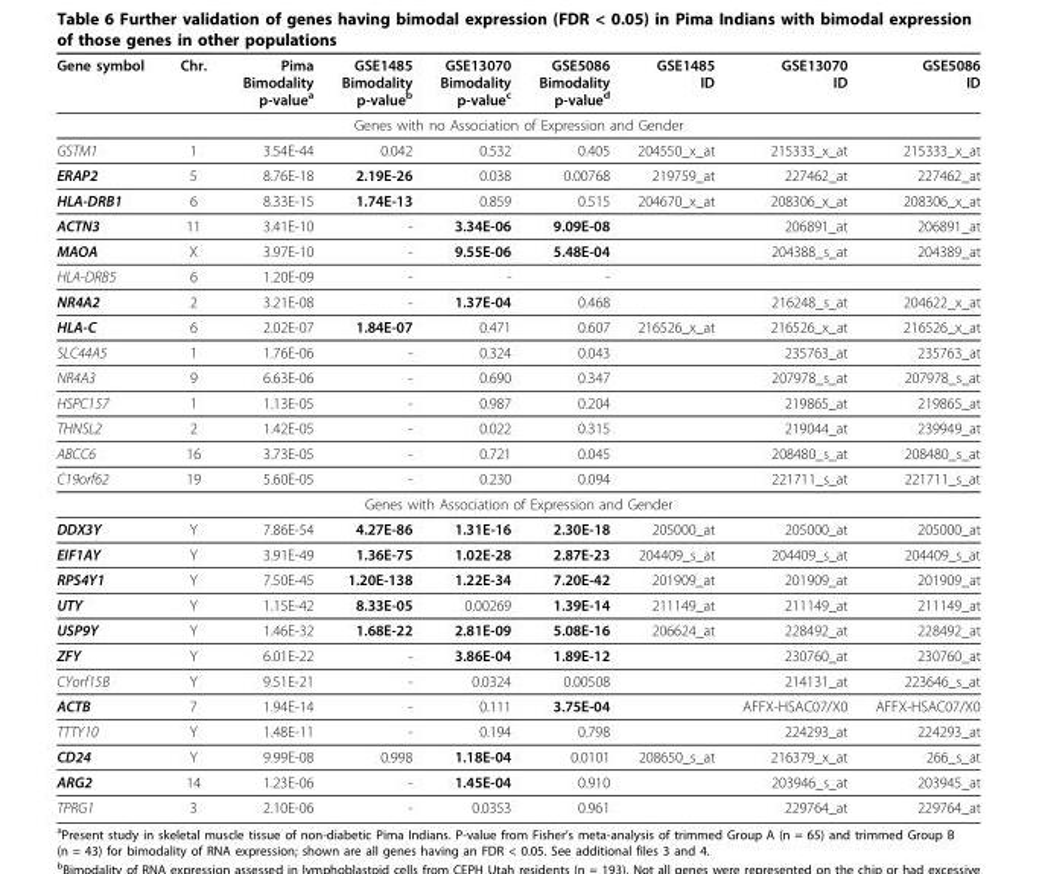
<table><thead><tr><td>Gene symbol</td><td>Chr.</td><td>Pima Bimodality p-value<sup>a</sup></td><td>GSE1485 Bimodality p-value<sup>b</sup></td><td>GSE13070 Bimodality p-value<sup>c</sup></td><td>GSE5086 Bimodality p-value<sup>d</sup></td><td>GSE1485 ID</td><td>GSE13070 ID</td><td>GSE5086 ID</td></tr></thead><tbody><tr><td colspan="9">Genes with no Association of Expression and Gender</td></tr><tr><td>GSTM1</td><td>1</td><td>3.54E-44</td><td>0.042</td><td>0.532</td><td>0.405</td><td>204550_x_at</td><td>215333_x_at</td><td>215333_x_at</td></tr><tr><td>ERAP2</td><td>5</td><td>8.76E-18</td><td>2.19E-26</td><td>0.038</td><td>0.00768</td><td>219759_at</td><td>227462_at</td><td>227462_at</td></tr><tr><td>HLA-DRB1</td><td>6</td><td>8.33E-15</td><td>1.74E-13</td><td>0.859</td><td>0.515</td><td>204670_x_at</td><td>208306_x_at</td><td>208306_x_at</td></tr><tr><td>ACTN3</td><td>11</td><td>3.41E-10</td><td>-</td><td>3.34E-06</td><td>9.09E-08</td><td></td><td>206891_at</td><td>206891_at</td></tr><tr><td>MAOA</td><td>X</td><td>3.97E-10</td><td>-</td><td>9.55E-06</td><td>5.48E-04</td><td></td><td>204388_s_at</td><td>204389_at</td></tr><tr><td>HLA-DRB5</td><td>6</td><td>1.20E-09</td><td>-</td><td>-</td><td>-</td><td></td><td></td><td></td></tr><tr><td>NR4A2</td><td>2</td><td>3.21E-08</td><td>-</td><td>1.37E-04</td><td>0.468</td><td></td><td>216248_s_at</td><td>204622_x_at</td></tr><tr><td>HLA-C</td><td>6</td><td>2.02E-07</td><td>1.84E-07</td><td>0.471</td><td>0.607</td><td>216526_x_at</td><td>216526_x_at</td><td>216526_x_at</td></tr><tr><td>SLC44A5</td><td>1</td><td>1.76E-06</td><td>-</td><td>0.324</td><td>0.043</td><td></td><td>235763_at</td><td>235763_at</td></tr><tr><td>NR4A3</td><td>9</td><td>6.63E-06</td><td>-</td><td>0.690</td><td>0.347</td><td></td><td>207978_s_at</td><td>207978_s_at</td></tr><tr><td>HSPC157</td><td>1</td><td>1.13E-05</td><td>-</td><td>0.987</td><td>0.204</td><td></td><td>219865_at</td><td>219865_at</td></tr><tr><td>THNSL2</td><td>2</td><td>1.42E-05</td><td>-</td><td>0.022</td><td>0.315</td><td></td><td>219044_at</td><td>239949_at</td></tr><tr><td>ABCC6</td><td>16</td><td>3.73E-05</td><td>-</td><td>0.721</td><td>0.045</td><td></td><td>208480_s_at</td><td>208480_s_at</td></tr><tr><td>C19orf62</td><td>19</td><td>5.60E-05</td><td>-</td><td>0.230</td><td>0.094</td><td></td><td>221711_s_at</td><td>221711_s_at</td></tr><tr><td colspan="9">Genes with Association of Expression and Gender</td></tr><tr><td>DDX3Y</td><td>Y</td><td>7.86E-54</td><td>4.27E-86</td><td>1.31E-16</td><td>2.30E-18</td><td>205000_at</td><td>205000_at</td><td>205000_at</td></tr><tr><td>EIF1AY</td><td>Y</td><td>3.91E-49</td><td>1.36E-75</td><td>1.02E-28</td><td>2.87E-23</td><td>204409_s_at</td><td>204409_s_at</td><td>204409_s_at</td></tr><tr><td>RPS4Y1</td><td>Y</td><td>7.50E-45</td><td>1.20E-138</td><td>1.22E-34</td><td>7.20E-42</td><td>201909_at</td><td>201909_at</td><td>201909_at</td></tr><tr><td>UTY</td><td>Y</td><td>1.15E-42</td><td>8.33E-05</td><td>0.00269</td><td>1.39E-14</td><td>211149_at</td><td>211149_at</td><td>211149_at</td></tr><tr><td>USP9Y</td><td>Y</td><td>1.46E-32</td><td>1.68E-22</td><td>2.81E-09</td><td>5.08E-16</td><td>206624_at</td><td>228492_at</td><td>228492_at</td></tr><tr><td>ZFY</td><td>Y</td><td>6.01E-22</td><td>-</td><td>3.86E-04</td><td>1.89E-12</td><td></td><td>230760_at</td><td>230760_at</td></tr><tr><td>CYorf15B</td><td>Y</td><td>9.51E-21</td><td>-</td><td>0.0324</td><td>0.00508</td><td></td><td>214131_at</td><td>223646_s_at</td></tr><tr><td>ACTB</td><td>7</td><td>1.94E-14</td><td>-</td><td>0.111</td><td>3.75E-04</td><td></td><td>AFFX-HSAC07/X0</td><td>AFFX-HSAC07/X0</td></tr><tr><td>TTTY10</td><td>Y</td><td>1.48E-11</td><td>-</td><td>0.194</td><td>0.798</td><td></td><td>224293_at</td><td>224293_at</td></tr><tr><td>CD24</td><td>Y</td><td>9.99E-08</td><td>0.998</td><td>1.18E-04</td><td>0.0101</td><td>208650_s_at</td><td>216379_x_at</td><td>266_s_at</td></tr><tr><td>ARG2</td><td>14</td><td>1.23E-06</td><td>-</td><td>1.45E-04</td><td>0.910</td><td></td><td>203946_s_at</td><td>203945_at</td></tr><tr><td>TPRG1</td><td>3</td><td>2.10E-06</td><td>-</td><td>0.0353</td><td>0.961</td><td></td><td>229764_at</td><td>229764_at</td></tr></tbody></table>